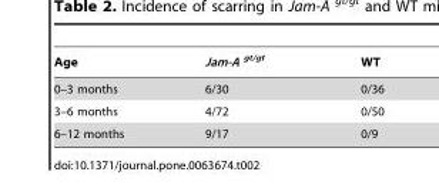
<table><thead><tr><td>Age</td><td>Jam-A <sup>gt/gt</sup></td><td>WT</td></tr></thead><tbody><tr><td>0–3 months</td><td>6/30</td><td>0/36</td></tr><tr><td>3–6 months</td><td>4/72</td><td>0/50</td></tr><tr><td>6–12 months</td><td>9/17</td><td>0/9</td></tr></tbody></table>